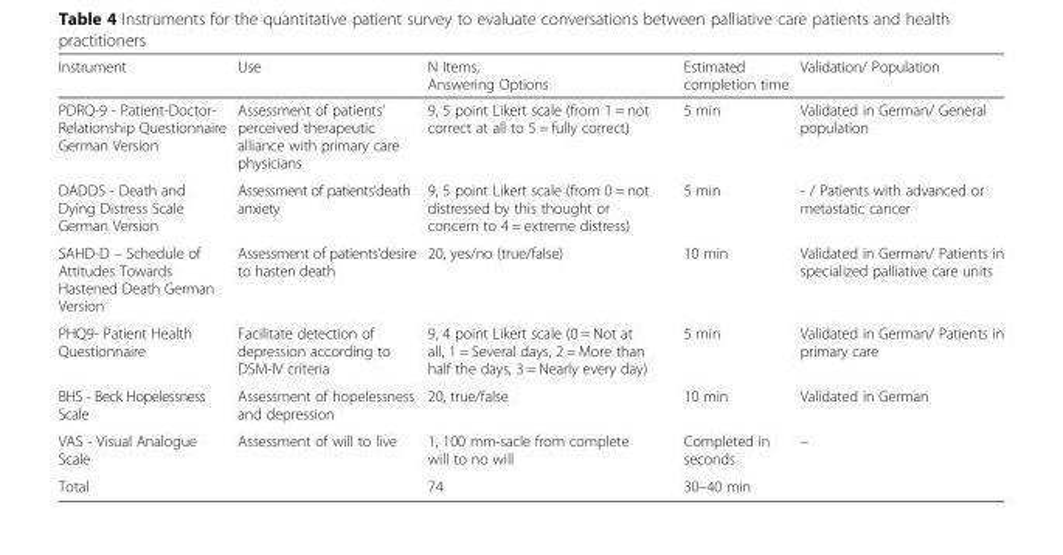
<table><thead><tr><td>Instrument</td><td>Use</td><td>N Items, Answering Options</td><td>Estimated completion time</td><td>Validation/ Population</td></tr></thead><tbody><tr><td>PDRQ-9 - Patient-Doctor- Relationship Questionnaire German Version</td><td>Assessment of patients’ perceived therapeutic alliance with primary care physicians</td><td>9, 5 point Likert scale (from 1 = not correct at all to 5 = fully correct)</td><td>5 min</td><td>Validated in German/ General population</td></tr><tr><td>DADDS - Death and Dying Distress Scale German Version</td><td>Assessment of patients‘death anxiety</td><td>9, 5 point Likert scale (from 0 = not distressed by this thought or concern to 4 = extreme distress)</td><td>5 min</td><td>- / Patients with advanced or metastatic cancer</td></tr><tr><td>SAHD-D – Schedule of Attitudes Towards Hastened Death German Version</td><td>Assessment of patients‘desire to hasten death</td><td>20, yes/no (true/false)</td><td>10 min</td><td>Validated in German/ Patients in specialized palliative care units</td></tr><tr><td>PHQ9- Patient Health Questionnaire</td><td>Facilitate detection of depression according to DSM-IV criteria</td><td>9, 4 point Likert scale (0 = Not at all, 1 = Several days, 2 = More than half the days, 3 = Nearly every day)</td><td>5 min</td><td>Validated in German/ Patients in primary care</td></tr><tr><td>BHS - Beck Hopelessness Scale</td><td>Assessment of hopelessness and depression</td><td>20, true/false</td><td>10 min</td><td>Validated in German</td></tr><tr><td>VAS - Visual Analogue Scale</td><td>Assessment of will to live</td><td>1, 100 mm-sacle from complete will to no will</td><td>Completed in seconds</td><td>–</td></tr><tr><td>Total</td><td></td><td>74</td><td>30–40 min</td><td></td></tr></tbody></table>